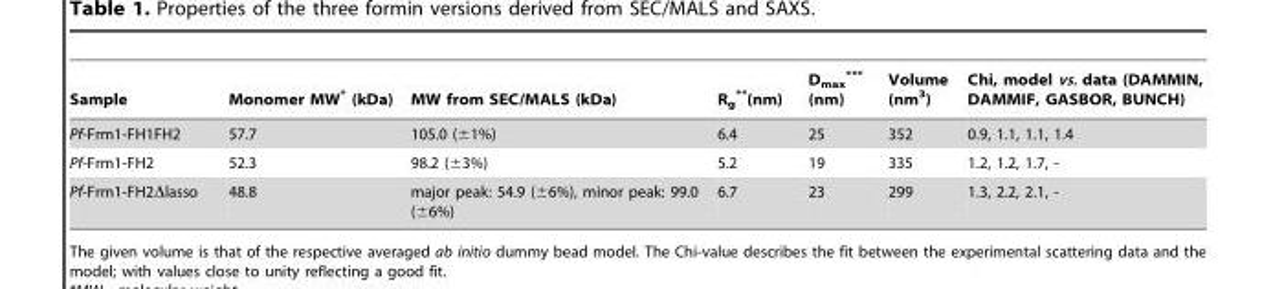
<table><thead><tr><td>Sample</td><td>Monomer MW* (kDa)</td><td>MW from SEC/MALS (kDa)</td><td>R<sub>g</sub> **(nm)</td><td>D<sub>max</sub> *** (nm)</td><td>Volume (nm<sup>3</sup>)</td><td>Chi, model vs. data (DAMMIN, DAMMIF, GASBOR, BUNCH)</td></tr></thead><tbody><tr><td>Pf-Frm1-FH1FH2</td><td>57.7</td><td>105.0 (±1%)</td><td>6.4</td><td>25</td><td>352</td><td>0.9, 1.1, 1.1, 1.4</td></tr><tr><td>Pf-Frm1-FH2</td><td>52.3</td><td>98.2 (±3%)</td><td>5.2</td><td>19</td><td>335</td><td>1.2, 1.2, 1.7, -</td></tr><tr><td>Pf-Frm1-FH2Δlasso</td><td>48.8</td><td>major peak: 54.9 (±6%), minor peak: 99.0 (±6%)</td><td>6.7</td><td>23</td><td>299</td><td>1.3, 2.2, 2.1, -</td></tr></tbody></table>